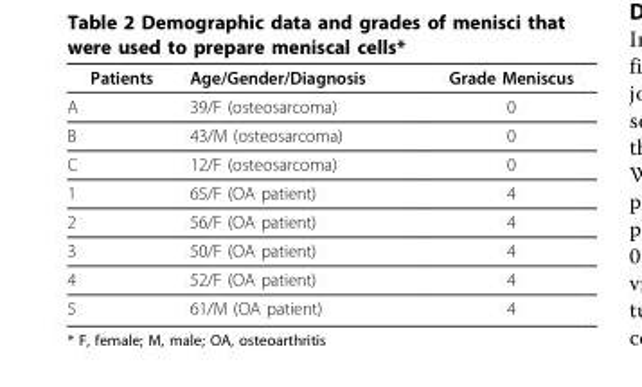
<table><thead><tr><td>Patients</td><td>Age/Gender/Diagnosis</td><td>Grade Meniscus</td></tr></thead><tbody><tr><td>A</td><td>39/F (osteosarcoma)</td><td>0</td></tr><tr><td>B</td><td>43/M (osteosarcoma)</td><td>0</td></tr><tr><td>C</td><td>12/F (osteosarcoma)</td><td>0</td></tr><tr><td>1</td><td>65/F (OA patient)</td><td>4</td></tr><tr><td>2</td><td>56/F (OA patient)</td><td>4</td></tr><tr><td>3</td><td>50/F (OA patient)</td><td>4</td></tr><tr><td>4</td><td>52/F (OA patient)</td><td>4</td></tr><tr><td>5</td><td>61/M (OA patient)</td><td>4</td></tr></tbody></table>